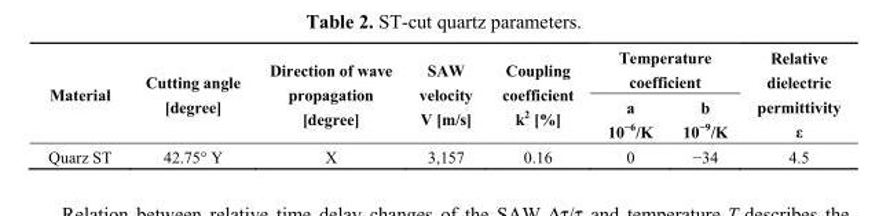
<table><thead><tr><td rowspan="2">Material</td><td rowspan="2">Cutting angle [degree]</td><td rowspan="2">Direction of wave propagation [degree]</td><td rowspan="2">SAW velocity V [m/s]</td><td rowspan="2">Coupling coefficient k<sup>2</sup> [%]</td><td colspan="2">Temperature coefficient</td><td rowspan="2">Relative dielectric permittivity ε</td></tr><tr><td>a 10<sup>−6</sup>/K</td><td>b 10<sup>−9</sup>/K</td></tr></thead><tbody><tr><td>Quarz ST</td><td>42.75° Y</td><td>X</td><td>3,157</td><td>0.16</td><td>0</td><td>−34</td><td>4.5</td></tr></tbody></table>